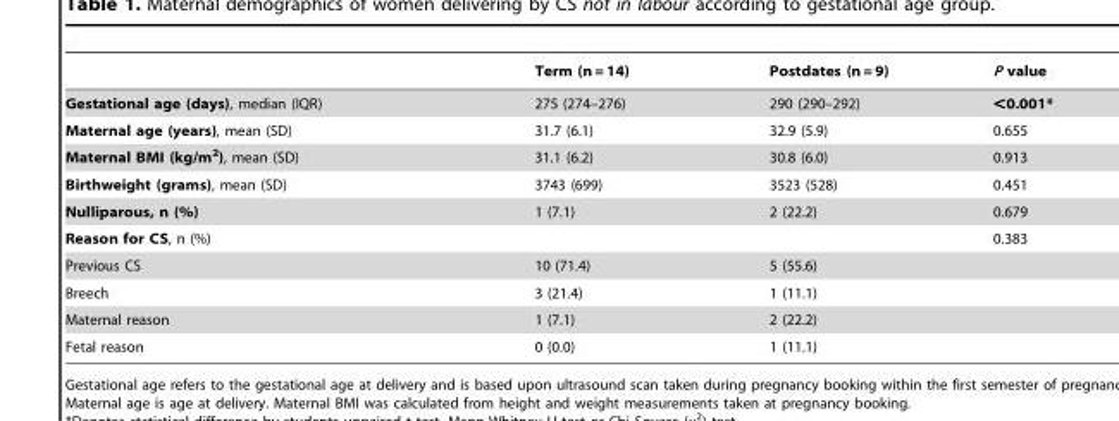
<table><thead><tr><td></td><td>Term (n = 14)</td><td>Postdates (n = 9)</td><td>P value</td></tr></thead><tbody><tr><td>Gestational age (days), median (IQR)</td><td>275 (274–276)</td><td>290 (290–292)</td><td>&lt;0.001*</td></tr><tr><td>Maternal age (years), mean (SD)</td><td>31.7 (6.1)</td><td>32.9 (5.9)</td><td>0.655</td></tr><tr><td>Maternal BMI (kg/m<sup>2</sup>), mean (SD)</td><td>31.1 (6.2)</td><td>30.8 (6.0)</td><td>0.913</td></tr><tr><td>Birthweight (grams), mean (SD)</td><td>3743 (699)</td><td>3523 (528)</td><td>0.451</td></tr><tr><td>Nulliparous, n (%)</td><td>1 (7.1)</td><td>2 (22.2)</td><td>0.679</td></tr><tr><td>Reason for CS, n (%)</td><td></td><td></td><td>0.383</td></tr><tr><td>Previous CS</td><td>10 (71.4)</td><td>5 (55.6)</td><td></td></tr><tr><td>Breech</td><td>3 (21.4)</td><td>1 (11.1)</td><td></td></tr><tr><td>Maternal reason</td><td>1 (7.1)</td><td>2 (22.2)</td><td></td></tr><tr><td>Fetal reason</td><td>0 (0.0)</td><td>1 (11.1)</td><td></td></tr></tbody></table>